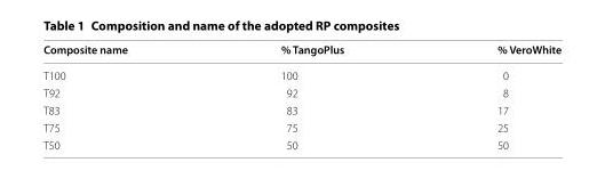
<table><thead><tr><td>Composite name</td><td>% TangoPlus</td><td>% VeroWhite</td></tr></thead><tbody><tr><td>T100</td><td>100</td><td>0</td></tr><tr><td>T92</td><td>92</td><td>8</td></tr><tr><td>T83</td><td>83</td><td>17</td></tr><tr><td>T75</td><td>75</td><td>25</td></tr><tr><td>T50</td><td>50</td><td>50</td></tr></tbody></table>